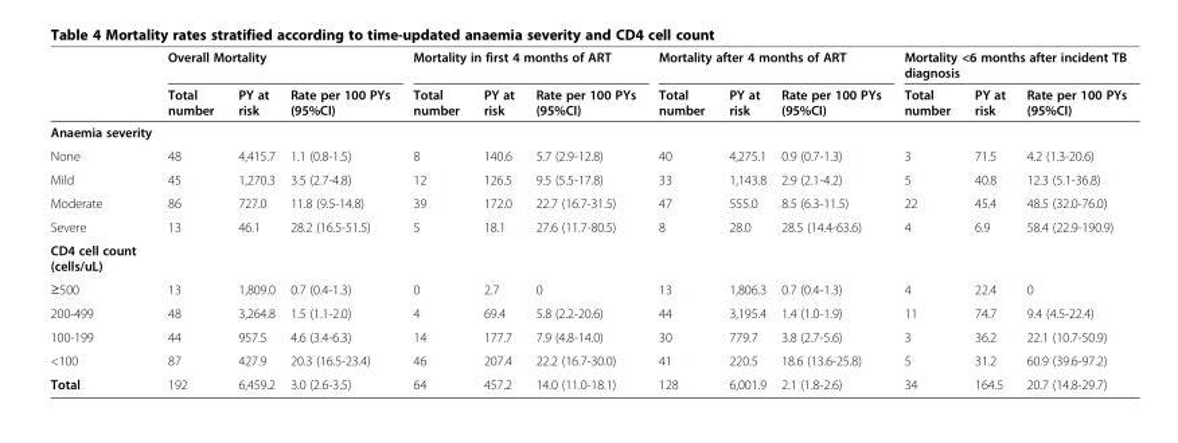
<table><thead><tr><td rowspan="2"></td><td colspan="3">Overall Mortality</td><td colspan="3">Mortality in first 4 months of ART</td><td colspan="3">Mortality after 4 months of ART</td><td colspan="3">Mortality &lt;6 months after incident TB diagnosis</td></tr><tr><td>Total number</td><td>PY at risk</td><td>Rate per 100 PYs (95%CI)</td><td>Total number</td><td>PY at risk</td><td>Rate per 100 PYs (95%CI)</td><td>Total number</td><td>PY at risk</td><td>Rate per 100 PYs (95%CI)</td><td>Total number</td><td>PY at risk</td><td>Rate per 100 PYs (95%CI)</td></tr></thead><tbody><tr><td colspan="13">Anaemia severity</td></tr><tr><td>None</td><td>48</td><td>4,415.7</td><td>1.1 (0.8-1.5)</td><td>8</td><td>140.6</td><td>5.7 (2.9-12.8)</td><td>40</td><td>4,275.1</td><td>0.9 (0.7-1.3)</td><td>3</td><td>71.5</td><td>4.2 (1.3-20.6)</td></tr><tr><td>Mild</td><td>45</td><td>1,270.3</td><td>3.5 (2.7-4.8)</td><td>12</td><td>126.5</td><td>9.5 (5.5-17.8)</td><td>33</td><td>1,143.8</td><td>2.9 (2.1-4.2)</td><td>5</td><td>40.8</td><td>12.3 (5.1-36.8)</td></tr><tr><td>Moderate</td><td>86</td><td>727.0</td><td>11.8 (9.5-14.8)</td><td>39</td><td>172.0</td><td>22.7 (16.7-31.5)</td><td>47</td><td>555.0</td><td>8.5 (6.3-11.5)</td><td>22</td><td>45.4</td><td>48.5 (32.0-76.0)</td></tr><tr><td>Severe</td><td>13</td><td>46.1</td><td>28.2 (16.5-51.5)</td><td>5</td><td>18.1</td><td>27.6 (11.7-80.5)</td><td>8</td><td>28.0</td><td>28.5 (14.4-63.6)</td><td>4</td><td>6.9</td><td>58.4 (22.9-190.9)</td></tr><tr><td colspan="13">CD4 cell count (cells/uL)</td></tr><tr><td>≥500</td><td>13</td><td>1,809.0</td><td>0.7 (0.4-1.3)</td><td>0</td><td>2.7</td><td>0</td><td>13</td><td>1,806.3</td><td>0.7 (0.4-1.3)</td><td>4</td><td>22.4</td><td>0</td></tr><tr><td>200-499</td><td>48</td><td>3,264.8</td><td>1.5 (1.1-2.0)</td><td>4</td><td>69.4</td><td>5.8 (2.2-20.6)</td><td>44</td><td>3,195.4</td><td>1.4 (1.0-1.9)</td><td>11</td><td>74.7</td><td>9.4 (4.5-22.4)</td></tr><tr><td>100-199</td><td>44</td><td>957.5</td><td>4.6 (3.4-6.3)</td><td>14</td><td>177.7</td><td>7.9 (4.8-14.0)</td><td>30</td><td>779.7</td><td>3.8 (2.7-5.6)</td><td>3</td><td>36.2</td><td>22.1 (10.7-50.9)</td></tr><tr><td>&lt;100</td><td>87</td><td>427.9</td><td>20.3 (16.5-23.4)</td><td>46</td><td>207.4</td><td>22.2 (16.7-30.0)</td><td>41</td><td>220.5</td><td>18.6 (13.6-25.8)</td><td>5</td><td>31.2</td><td>60.9 (39.6-97.2)</td></tr><tr><td>Total</td><td>192</td><td>6,459.2</td><td>3.0 (2.6-3.5)</td><td>64</td><td>457.2</td><td>14.0 (11.0-18.1)</td><td>128</td><td>6,001.9</td><td>2.1 (1.8-2.6)</td><td>34</td><td>164.5</td><td>20.7 (14.8-29.7)</td></tr></tbody></table>